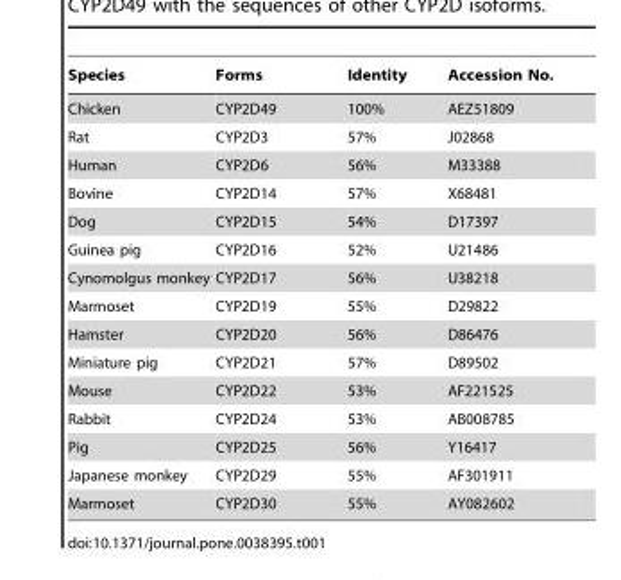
<table><thead><tr><td>Species</td><td>Forms</td><td>Identity</td><td>Accession No.</td></tr></thead><tbody><tr><td>Chicken</td><td>CYP2D49</td><td>100%</td><td>AEZ51809</td></tr><tr><td>Rat</td><td>CYP2D3</td><td>57%</td><td>J02868</td></tr><tr><td>Human</td><td>CYP2D6</td><td>56%</td><td>M33388</td></tr><tr><td>Bovine</td><td>CYP2D14</td><td>57%</td><td>X68481</td></tr><tr><td>Dog</td><td>CYP2D15</td><td>54%</td><td>D17397</td></tr><tr><td>Guinea pig</td><td>CYP2D16</td><td>52%</td><td>U21486</td></tr><tr><td>Cynomolgus monkey</td><td>CYP2D17</td><td>56%</td><td>U38218</td></tr><tr><td>Marmoset</td><td>CYP2D19</td><td>55%</td><td>D29822</td></tr><tr><td>Hamster</td><td>CYP2D20</td><td>56%</td><td>D86476</td></tr><tr><td>Miniature pig</td><td>CYP2D21</td><td>57%</td><td>D89502</td></tr><tr><td>Mouse</td><td>CYP2D22</td><td>53%</td><td>AF221525</td></tr><tr><td>Rabbit</td><td>CYP2D24</td><td>53%</td><td>AB008785</td></tr><tr><td>Pig</td><td>CYP2D25</td><td>56%</td><td>Y16417</td></tr><tr><td>Japanese monkey</td><td>CYP2D29</td><td>55%</td><td>AF301911</td></tr><tr><td>Marmoset</td><td>CYP2D30</td><td>55%</td><td>AY082602</td></tr></tbody></table>